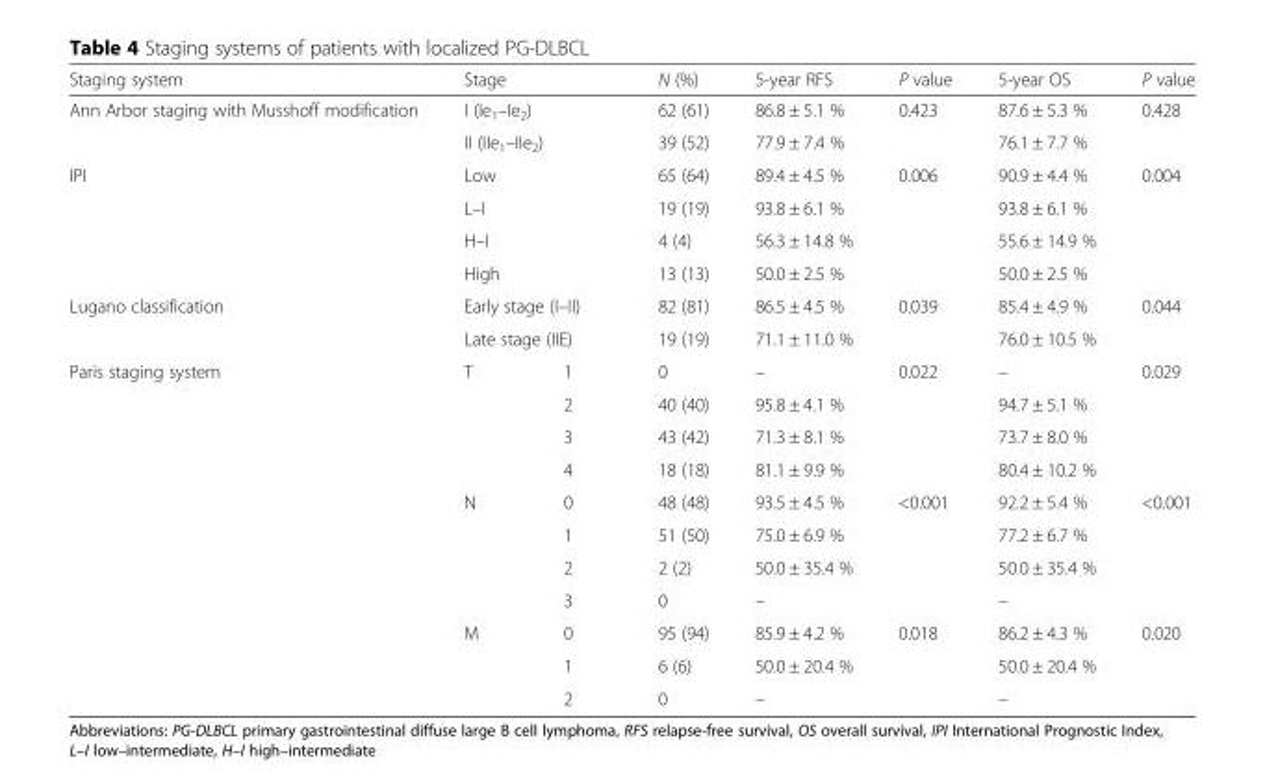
<table><thead><tr><td>Staging system</td><td colspan="2">Stage</td><td>N (%)</td><td>5-year RFS</td><td>P value</td><td>5-year OS</td><td>P value</td></tr></thead><tbody><tr><td rowspan="2">Ann Arbor staging with Musshoff modification</td><td colspan="2">I (Ie<sub>1</sub>–Ie<sub>2</sub>)</td><td>62 (61)</td><td>86.8 ± 5.1 %</td><td rowspan="2">0.423</td><td>87.6 ± 5.3 %</td><td rowspan="2">0.428</td></tr><tr><td colspan="2">II (IIe<sub>1</sub>–IIe<sub>2</sub>)</td><td>39 (52)</td><td>77.9 ± 7.4 %</td><td>76.1 ± 7.7 %</td></tr><tr><td rowspan="4">IPI</td><td colspan="2">Low</td><td>65 (64)</td><td>89.4 ± 4.5 %</td><td rowspan="4">0.006</td><td>90.9 ± 4.4 %</td><td rowspan="4">0.004</td></tr><tr><td colspan="2">L–I</td><td>19 (19)</td><td>93.8 ± 6.1 %</td><td>93.8 ± 6.1 %</td></tr><tr><td colspan="2">H–I</td><td>4 (4)</td><td>56.3 ± 14.8 %</td><td>55.6 ± 14.9 %</td></tr><tr><td colspan="2">High</td><td>13 (13)</td><td>50.0 ± 2.5 %</td><td>50.0 ± 2.5 %</td></tr><tr><td rowspan="2">Lugano classification</td><td colspan="2">Early stage (I–II)</td><td>82 (81)</td><td>86.5 ± 4.5 %</td><td rowspan="2">0.039</td><td>85.4 ± 4.9 %</td><td rowspan="2">0.044</td></tr><tr><td colspan="2">Late stage (IIE)</td><td>19 (19)</td><td>71.1 ± 11.0 %</td><td>76.0 ± 10.5 %</td></tr><tr><td rowspan="11">Paris staging system</td><td rowspan="4">T</td><td>1</td><td>0</td><td>–</td><td rowspan="4">0.022</td><td>–</td><td rowspan="4">0.029</td></tr><tr><td>2</td><td>40 (40)</td><td>95.8 ± 4.1 %</td><td>94.7 ± 5.1 %</td></tr><tr><td>3</td><td>43 (42)</td><td>71.3 ± 8.1 %</td><td>73.7 ± 8.0 %</td></tr><tr><td>4</td><td>18 (18)</td><td>81.1 ± 9.9 %</td><td>80.4 ± 10.2 %</td></tr><tr><td rowspan="4">N</td><td>0</td><td>48 (48)</td><td>93.5 ± 4.5 %</td><td rowspan="4">&lt;0.001</td><td>92.2 ± 5.4 %</td><td rowspan="4">&lt;0.001</td></tr><tr><td>1</td><td>51 (50)</td><td>75.0 ± 6.9 %</td><td>77.2 ± 6.7 %</td></tr><tr><td>2</td><td>2 (2)</td><td>50.0 ± 35.4 %</td><td>50.0 ± 35.4 %</td></tr><tr><td>3</td><td>0</td><td>–</td><td>–</td></tr><tr><td rowspan="3">M</td><td>0</td><td>95 (94)</td><td>85.9 ± 4.2 %</td><td rowspan="3">0.018</td><td>86.2 ± 4.3 %</td><td rowspan="3">0.020</td></tr><tr><td>1</td><td>6 (6)</td><td>50.0 ± 20.4 %</td><td>50.0 ± 20.4 %</td></tr><tr><td>2</td><td>0</td><td>–</td><td>–</td></tr></tbody></table>